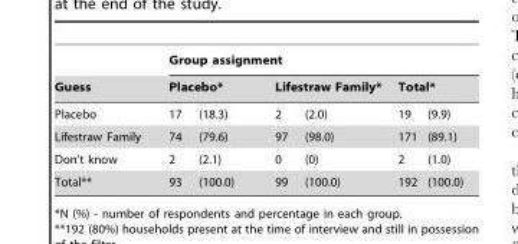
<table><thead><tr><td rowspan="3">Guess Placebo</td><td colspan="6">Group assignment</td></tr><tr><td colspan="2">Placebo*</td><td colspan="2">Lifestraw Family*</td><td colspan="2">Total*</td></tr><tr><td>17</td><td>(18.3)</td><td>2</td><td>(2.0)</td><td>19</td><td>(9.9)</td></tr></thead><tbody><tr><td>Lifestraw Family</td><td>74</td><td>(79.6)</td><td>97</td><td>(98.0)</td><td>171</td><td>(89.1)</td></tr><tr><td>Don’t know</td><td>2</td><td>(2.1)</td><td>0</td><td>(0)</td><td>2</td><td>(1.0)</td></tr><tr><td>Total**</td><td>93</td><td>(100.0)</td><td>99</td><td>(100.0)</td><td>192</td><td>(100.0)</td></tr></tbody></table>